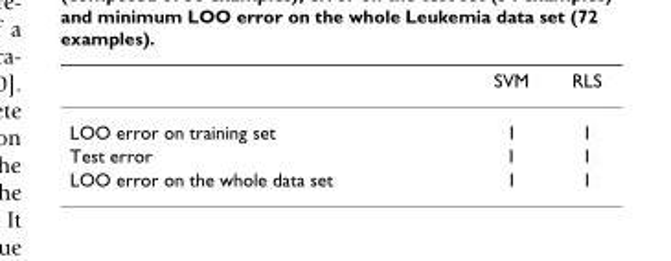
<table><thead><tr><td></td><td>SVM</td><td>RLS</td></tr></thead><tbody><tr><td>LOO error on training set</td><td>1</td><td>1</td></tr><tr><td>Test error</td><td>1</td><td>1</td></tr><tr><td>LOO error on the whole data set</td><td>1</td><td>1</td></tr></tbody></table>